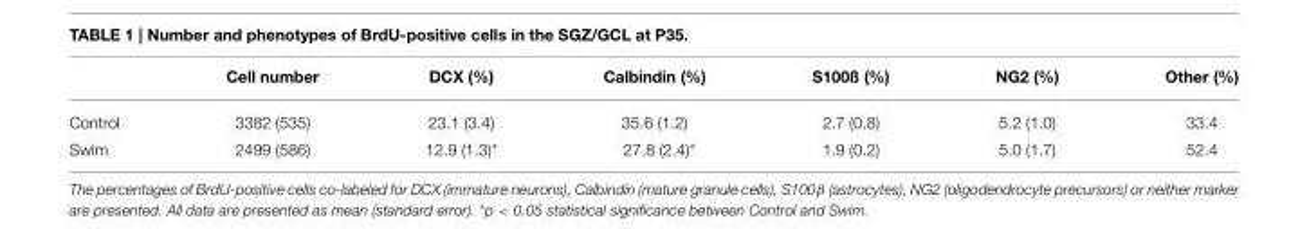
<table><thead><tr><td></td><td>Cell number</td><td>DCX (%)</td><td>Calbindin (%)</td><td>S100ß (%)</td><td>NG2 (%)</td><td>Other (%)</td></tr></thead><tbody><tr><td>Control</td><td>3382 (535)</td><td>23.1 (3.4)</td><td>35.6 (1.2)</td><td>2.7 (0.8)</td><td>5.2 (1.0)</td><td>33.4</td></tr><tr><td>Swim</td><td>2499 (586)</td><td>12.9 (1.3)*</td><td>27.8 (2.4)*</td><td>1.9 (0.2)</td><td>5.0 (1.7)</td><td>52.4</td></tr></tbody></table>